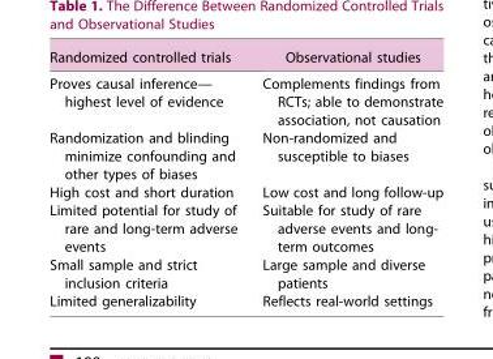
<table><thead><tr><td>Randomized controlled trials</td><td>Observational studies</td></tr></thead><tbody><tr><td>Proves causal inference— highest level of evidence</td><td>Complements findings from RCTs; able to demonstrate association, not causation</td></tr><tr><td>Randomization and blinding minimize confounding and other types of biases</td><td>Non-randomized and susceptible to biases</td></tr><tr><td>High cost and short duration</td><td>Low cost and long follow-up</td></tr><tr><td>Limited potential for study of rare and long-term adverse events</td><td>Suitable for study of rare adverse events and long- term outcomes</td></tr><tr><td>Small sample and strict inclusion criteria</td><td>Large sample and diverse patients</td></tr><tr><td>Limited generalizability</td><td>Reflects real-world settings</td></tr></tbody></table>